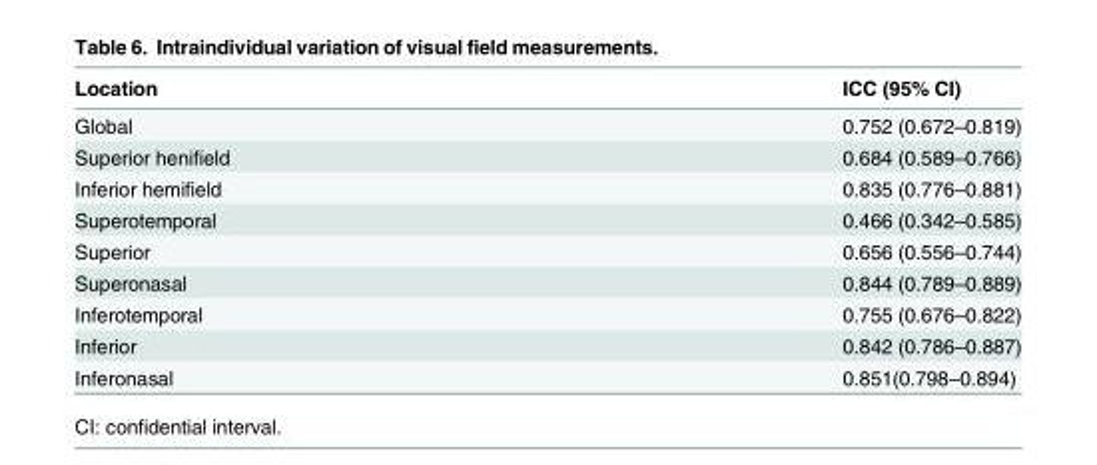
<table><thead><tr><td>Location</td><td>ICC (95% CI)</td></tr></thead><tbody><tr><td>Global</td><td>0.752 (0.672–0.819)</td></tr><tr><td>Superior henifield</td><td>0.684 (0.589–0.766)</td></tr><tr><td>Inferior hemifield</td><td>0.835 (0.776–0.881)</td></tr><tr><td>Superotemporal</td><td>0.466 (0.342–0.585)</td></tr><tr><td>Superior</td><td>0.656 (0.556–0.744)</td></tr><tr><td>Superonasal</td><td>0.844 (0.789–0.889)</td></tr><tr><td>Inferotemporal</td><td>0.755 (0.676–0.822)</td></tr><tr><td>Inferior</td><td>0.842 (0.786–0.887)</td></tr><tr><td>Inferonasal</td><td>0.851(0.798–0.894)</td></tr></tbody></table>